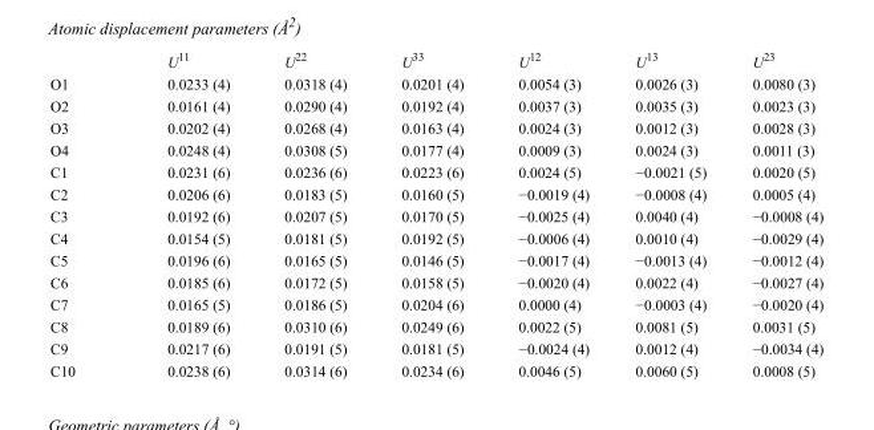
<table><thead><tr><td></td><td>U<sup>11</sup></td><td>U<sup>22</sup></td><td>U<sup>33</sup></td><td>U<sup>12</sup></td><td>U<sup>13</sup></td><td>U<sup>23</sup></td></tr></thead><tbody><tr><td>O1</td><td>0.0233 (4)</td><td>0.0318 (4)</td><td>0.0201 (4)</td><td>0.0054 (3)</td><td>0.0026 (3)</td><td>0.0080 (3)</td></tr><tr><td>O2</td><td>0.0161 (4)</td><td>0.0290 (4)</td><td>0.0192 (4)</td><td>0.0037 (3)</td><td>0.0035 (3)</td><td>0.0023 (3)</td></tr><tr><td>O3</td><td>0.0202 (4)</td><td>0.0268 (4)</td><td>0.0163 (4)</td><td>0.0024 (3)</td><td>0.0012 (3)</td><td>0.0028 (3)</td></tr><tr><td>O4</td><td>0.0248 (4)</td><td>0.0308 (5)</td><td>0.0177 (4)</td><td>0.0009 (3)</td><td>0.0024 (3)</td><td>0.0011 (3)</td></tr><tr><td>C1</td><td>0.0231 (6)</td><td>0.0236 (6)</td><td>0.0223 (6)</td><td>0.0024 (5)</td><td>−0.0021 (5)</td><td>0.0020 (5)</td></tr><tr><td>C2</td><td>0.0206 (6)</td><td>0.0183 (5)</td><td>0.0160 (5)</td><td>−0.0019 (4)</td><td>−0.0008 (4)</td><td>0.0005 (4)</td></tr><tr><td>C3</td><td>0.0192 (6)</td><td>0.0207 (5)</td><td>0.0170 (5)</td><td>−0.0025 (4)</td><td>0.0040 (4)</td><td>−0.0008 (4)</td></tr><tr><td>C4</td><td>0.0154 (5)</td><td>0.0181 (5)</td><td>0.0192 (5)</td><td>−0.0006 (4)</td><td>0.0010 (4)</td><td>−0.0029 (4)</td></tr><tr><td>C5</td><td>0.0196 (6)</td><td>0.0165 (5)</td><td>0.0146 (5)</td><td>−0.0017 (4)</td><td>−0.0013 (4)</td><td>−0.0012 (4)</td></tr><tr><td>C6</td><td>0.0185 (6)</td><td>0.0172 (5)</td><td>0.0158 (5)</td><td>−0.0020 (4)</td><td>0.0022 (4)</td><td>−0.0027 (4)</td></tr><tr><td>C7</td><td>0.0165 (5)</td><td>0.0186 (5)</td><td>0.0204 (6)</td><td>0.0000 (4)</td><td>−0.0003 (4)</td><td>−0.0020 (4)</td></tr><tr><td>C8</td><td>0.0189 (6)</td><td>0.0310 (6)</td><td>0.0249 (6)</td><td>0.0022 (5)</td><td>0.0081 (5)</td><td>0.0031 (5)</td></tr><tr><td>C9</td><td>0.0217 (6)</td><td>0.0191 (5)</td><td>0.0181 (5)</td><td>−0.0024 (4)</td><td>0.0012 (4)</td><td>−0.0034 (4)</td></tr><tr><td>C10</td><td>0.0238 (6)</td><td>0.0314 (6)</td><td>0.0234 (6)</td><td>0.0046 (5)</td><td>0.0060 (5)</td><td>0.0008 (5)</td></tr></tbody></table>